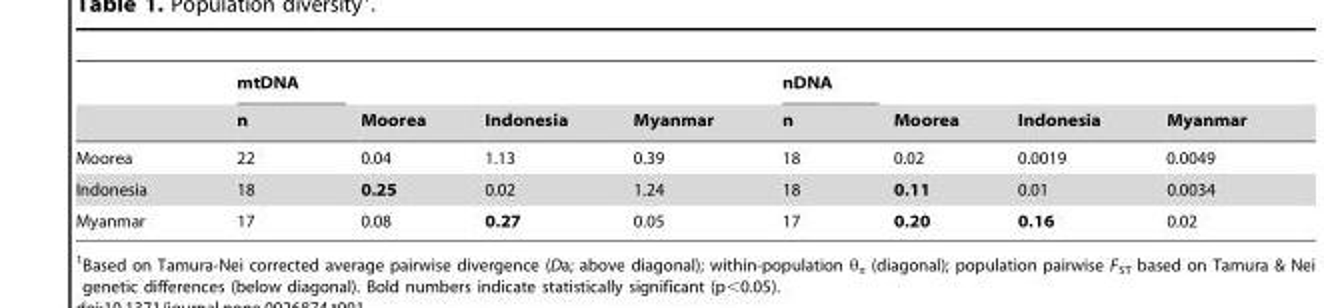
<table><thead><tr><td rowspan="2"></td><td rowspan="2">mtDNA n</td><td rowspan="2">Moorea</td><td rowspan="2">Indonesia</td><td rowspan="2">Myanmar</td><td rowspan="2">nDNA n</td><td rowspan="2">Moorea</td><td rowspan="2">Indonesia</td><td rowspan="2">Myanmar</td></tr><tr></tr></thead><tbody><tr><td>Moorea</td><td>22</td><td>0.04</td><td>1.13</td><td>0.39</td><td>18</td><td>0.02</td><td>0.0019</td><td>0.0049</td></tr><tr><td>Indonesia</td><td>18</td><td>0.25</td><td>0.02</td><td>1.24</td><td>18</td><td>0.11</td><td>0.01</td><td>0.0034</td></tr><tr><td>Myanmar</td><td>17</td><td>0.08</td><td>0.27</td><td>0.05</td><td>17</td><td>0.20</td><td>0.16</td><td>0.02</td></tr></tbody></table>